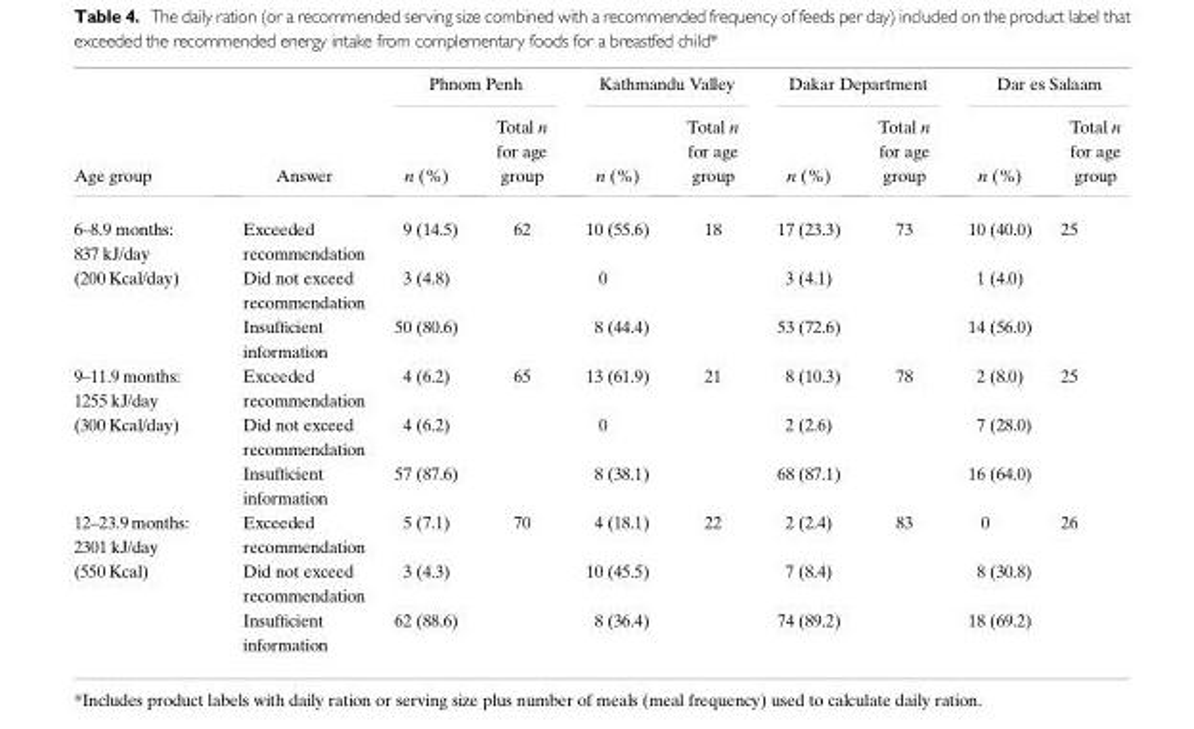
<table><thead><tr><td rowspan="2">Age group</td><td rowspan="2">Answer</td><td colspan="2">Phnom Penh</td><td colspan="2">Kathmandu Valley</td><td colspan="2">Dakar Department</td><td colspan="2">Dar es Salaam</td></tr><tr><td>n (%)</td><td>Total n for age group</td><td>n (%)</td><td>Total n for age group</td><td>n (%)</td><td>Total n for age group</td><td>n (%)</td><td>Total n for age group</td></tr></thead><tbody><tr><td rowspan="3">6–8.9 months: 837 kJ/day (200 Kcal/day)</td><td>Exceeded recommendation</td><td>9 (14.5)</td><td rowspan="3">62</td><td>10 (55.6)</td><td rowspan="3">18</td><td>17 (23.3)</td><td rowspan="3">73</td><td>10 (40.0)</td><td rowspan="3">25</td></tr><tr><td>Did not exceed recommendation</td><td>3 (4.8)</td><td>0</td><td>3 (4.1)</td><td>1 (4.0)</td></tr><tr><td>Insufficient information</td><td>50 (80.6)</td><td>8 (44.4)</td><td>53 (72.6)</td><td>14 (56.0)</td></tr><tr><td rowspan="3">9–11.9 months: 1255 kJ/day (300 Kcal/day)</td><td>Exceeded recommendation</td><td>4 (6.2)</td><td rowspan="3">65</td><td>13 (61.9)</td><td rowspan="3">21</td><td>8 (10.3)</td><td rowspan="3">78</td><td>2 (8.0)</td><td rowspan="3">25</td></tr><tr><td>Did not exceed recommendation</td><td>4 (6.2)</td><td>0</td><td>2 (2.6)</td><td>7 (28.0)</td></tr><tr><td>Insufficient information</td><td>57 (87.6)</td><td>8 (38.1)</td><td>68 (87.1)</td><td>16 (64.0)</td></tr><tr><td rowspan="3">12–23.9 months: 2301 kJ/day (550 Kcal)</td><td>Exceeded recommendation</td><td>5 (7.1)</td><td rowspan="3">70</td><td>4 (18.1)</td><td rowspan="3">22</td><td>2 (2.4)</td><td rowspan="3">83</td><td>0</td><td rowspan="3">26</td></tr><tr><td>Did not exceed recommendation</td><td>3 (4.3)</td><td>10 (45.5)</td><td>7 (8.4)</td><td>8 (30.8)</td></tr><tr><td>Insufficient information</td><td>62 (88.6)</td><td>8 (36.4)</td><td>74 (89.2)</td><td>18 (69.2)</td></tr></tbody></table>